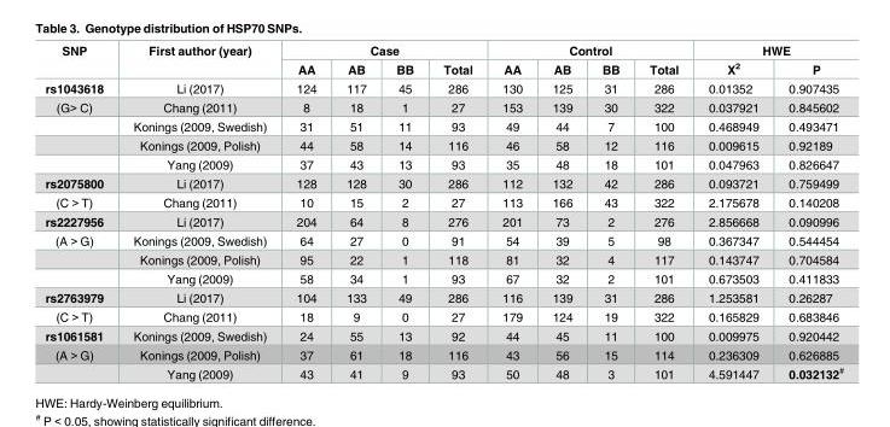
<table><thead><tr><td rowspan="2">SNP</td><td rowspan="2">First author (year)</td><td colspan="4">Case</td><td colspan="4">Control</td><td colspan="2">HWE</td></tr><tr><td>AA</td><td>AB</td><td>BB</td><td>Total</td><td>AA</td><td>AB</td><td>BB</td><td>Total</td><td>X<sup>2</sup></td><td>P</td></tr></thead><tbody><tr><td>rs1043618</td><td>Li (2017)</td><td>124</td><td>117</td><td>45</td><td>286</td><td>130</td><td>125</td><td>31</td><td>286</td><td>0.01352</td><td>0.907435</td></tr><tr><td rowspan="4">(G&gt; C)</td><td>Chang (2011)</td><td>8</td><td>18</td><td>1</td><td>27</td><td>153</td><td>139</td><td>30</td><td>322</td><td>0.037921</td><td>0.845602</td></tr><tr><td>Konings (2009, Swedish)</td><td>31</td><td>51</td><td>11</td><td>93</td><td>49</td><td>44</td><td>7</td><td>100</td><td>0.468949</td><td>0.493471</td></tr><tr><td>Konings (2009, Polish)</td><td>44</td><td>58</td><td>14</td><td>116</td><td>46</td><td>58</td><td>12</td><td>116</td><td>0.009615</td><td>0.92189</td></tr><tr><td>Yang (2009)</td><td>37</td><td>43</td><td>13</td><td>93</td><td>35</td><td>48</td><td>18</td><td>101</td><td>0.047963</td><td>0.826647</td></tr><tr><td>rs2075800</td><td>Li (2017)</td><td>128</td><td>128</td><td>30</td><td>286</td><td>112</td><td>132</td><td>42</td><td>286</td><td>0.093721</td><td>0.759499</td></tr><tr><td>(C &gt; T)</td><td>Chang (2011)</td><td>10</td><td>15</td><td>2</td><td>27</td><td>113</td><td>166</td><td>43</td><td>322</td><td>2.175678</td><td>0.140208</td></tr><tr><td>rs2227956</td><td>Li (2017)</td><td>204</td><td>64</td><td>8</td><td>276</td><td>201</td><td>73</td><td>2</td><td>276</td><td>2.856668</td><td>0.090996</td></tr><tr><td rowspan="3">(A &gt; G)</td><td>Konings (2009, Swedish)</td><td>64</td><td>27</td><td>0</td><td>91</td><td>54</td><td>39</td><td>5</td><td>98</td><td>0.367347</td><td>0.544454</td></tr><tr><td>Konings (2009, Polish)</td><td>95</td><td>22</td><td>1</td><td>118</td><td>81</td><td>32</td><td>4</td><td>117</td><td>0.143747</td><td>0.704584</td></tr><tr><td>Yang (2009)</td><td>58</td><td>34</td><td>1</td><td>93</td><td>67</td><td>32</td><td>2</td><td>101</td><td>0.673503</td><td>0.411833</td></tr><tr><td>rs2763979</td><td>Li (2017)</td><td>104</td><td>133</td><td>49</td><td>286</td><td>116</td><td>139</td><td>31</td><td>286</td><td>1.253581</td><td>0.26287</td></tr><tr><td>(C &gt; T)</td><td>Chang (2011)</td><td>18</td><td>9</td><td>0</td><td>27</td><td>179</td><td>124</td><td>19</td><td>322</td><td>0.165829</td><td>0.683846</td></tr><tr><td>rs1061581</td><td>Konings (2009, Swedish)</td><td>24</td><td>55</td><td>13</td><td>92</td><td>44</td><td>45</td><td>11</td><td>100</td><td>0.009975</td><td>0.920442</td></tr><tr><td rowspan="2">(A &gt; G)</td><td>Konings (2009, Polish)</td><td>37</td><td>61</td><td>18</td><td>116</td><td>43</td><td>56</td><td>15</td><td>114</td><td>0.236309</td><td>0.626885</td></tr><tr><td>Yang (2009)</td><td>43</td><td>41</td><td>9</td><td>93</td><td>50</td><td>48</td><td>3</td><td>101</td><td>4.591447</td><td>0.032132<sup>#</sup></td></tr></tbody></table>